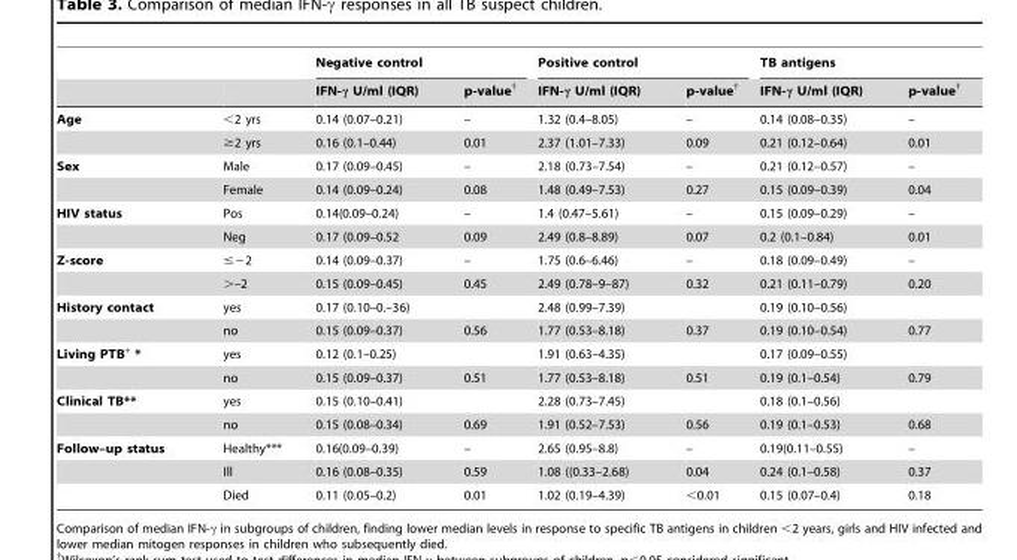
<table><thead><tr><td rowspan="2"></td><td rowspan="2"></td><td colspan="2">Negative control</td><td colspan="2">Positive control</td><td colspan="2">TB antigens</td></tr><tr><td>IFN-γ U/ml (IQR)</td><td>p-value†</td><td>IFN-γ U/ml (IQR)</td><td>p-value†</td><td>IFN-γ U/ml (IQR)</td><td>p-value†</td></tr></thead><tbody><tr><td rowspan="2">Age</td><td>&lt;2 yrs</td><td>0.14 (0.07–0.21)</td><td>–</td><td>1.32 (0.4–8.05)</td><td>–</td><td>0.14 (0.08–0.35)</td><td>–</td></tr><tr><td>≥2 yrs</td><td>0.16 (0.1–0.44)</td><td>0.01</td><td>2.37 (1.01–7.33)</td><td>0.09</td><td>0.21 (0.12–0.64)</td><td>0.01</td></tr><tr><td rowspan="2">Sex</td><td>Male</td><td>0.17 (0.09–0.45)</td><td>–</td><td>2.18 (0.73–7.54)</td><td>–</td><td>0.21 (0.12–0.57)</td><td>–</td></tr><tr><td>Female</td><td>0.14 (0.09–0.24)</td><td>0.08</td><td>1.48 (0.49–7.53)</td><td>0.27</td><td>0.15 (0.09–0.39)</td><td>0.04</td></tr><tr><td rowspan="2">HIV status</td><td>Pos</td><td>0.14(0.09–0.24)</td><td>–</td><td>1.4 (0.47–5.61)</td><td>–</td><td>0.15 (0.09–0.29)</td><td>–</td></tr><tr><td>Neg</td><td>0.17 (0.09–0.52</td><td>0.09</td><td>2.49 (0.8–8.89)</td><td>0.07</td><td>0.2 (0.1–0.84)</td><td>0.01</td></tr><tr><td rowspan="2">Z-score</td><td>≤−2</td><td>0.14 (0.09–0.37)</td><td>–</td><td>1.75 (0.6–6.46)</td><td>–</td><td>0.18 (0.09–0.49)</td><td>–</td></tr><tr><td>&gt;–2</td><td>0.15 (0.09–0.45)</td><td>0.45</td><td>2.49 (0.78–9–87)</td><td>0.32</td><td>0.21 (0.11–0.79)</td><td>0.20</td></tr><tr><td rowspan="2">History contact</td><td>yes</td><td>0.17 (0.10–0.–36)</td><td></td><td>2.48 (0.99–7.39)</td><td></td><td>0.19 (0.10–0.56)</td><td></td></tr><tr><td>no</td><td>0.15 (0.09–0.37)</td><td>0.56</td><td>1.77 (0.53–8.18)</td><td>0.37</td><td>0.19 (0.10–0.54)</td><td>0.77</td></tr><tr><td rowspan="2">Living PTB<sup>+</sup> *</td><td>yes</td><td>0.12 (0.1–0.25)</td><td></td><td>1.91 (0.63–4.35)</td><td></td><td>0.17 (0.09–0.55)</td><td></td></tr><tr><td>no</td><td>0.15 (0.09–0.37)</td><td>0.51</td><td>1.77 (0.53–8.18)</td><td>0.51</td><td>0.19 (0.1–0.54)</td><td>0.79</td></tr><tr><td rowspan="2">Clinical TB**</td><td>yes</td><td>0.15 (0.10–0.41)</td><td></td><td>2.28 (0.73–7.45)</td><td></td><td>0.18 (0.1–0.56)</td><td></td></tr><tr><td>no</td><td>0.15 (0.08–0.34)</td><td>0.69</td><td>1.91 (0.52–7.53)</td><td>0.56</td><td>0.19 (0.1–0.53)</td><td>0.68</td></tr><tr><td rowspan="3">Follow–up status</td><td>Healthy***</td><td>0.16(0.09–0.39)</td><td>–</td><td>2.65 (0.95–8.8)</td><td>–</td><td>0.19(0.11–0.55)</td><td>–</td></tr><tr><td>Ill</td><td>0.16 (0.08–0.35)</td><td>0.59</td><td>1.08 ((0.33–2.68)</td><td>0.04</td><td>0.24 (0.1–0.58)</td><td>0.37</td></tr><tr><td>Died</td><td>0.11 (0.05–0.2)</td><td>0.01</td><td>1.02 (0.19–4.39)</td><td>&lt;0.01</td><td>0.15 (0.07–0.4)</td><td>0.18</td></tr></tbody></table>